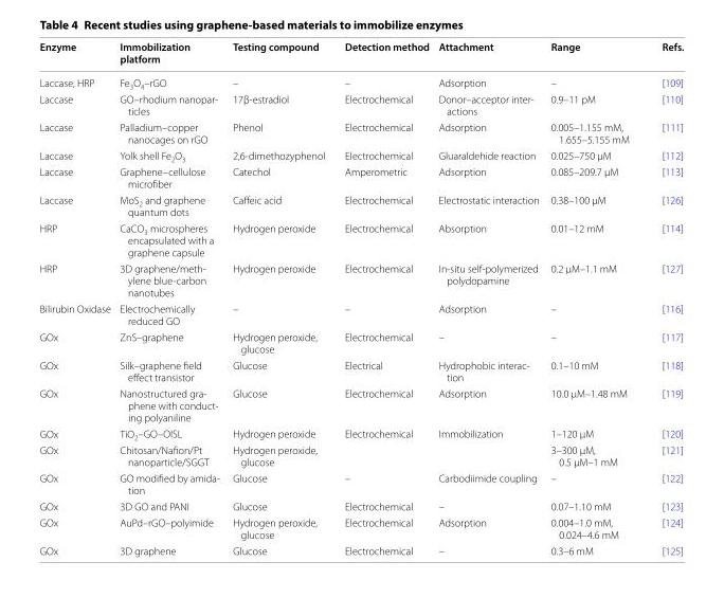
<table><thead><tr><td>Enzyme</td><td>Immobilization platform</td><td>Testing compound</td><td>Detection method</td><td>Attachment</td><td>Range</td><td>Refs.</td></tr></thead><tbody><tr><td>Laccase, HRP</td><td>Fe<sub>3</sub>O<sub>4</sub>–rGO</td><td>–</td><td>–</td><td>Adsorption</td><td>–</td><td>[109]</td></tr><tr><td>Laccase</td><td>GO–rhodium nanopar‑ ticles</td><td>17β‑estradiol</td><td>Electrochemical</td><td>Donor–acceptor inter‑ actions</td><td>0.9–11 pM</td><td>[110]</td></tr><tr><td>Laccase</td><td>Palladium–copper nanocages on rGO</td><td>Phenol</td><td>Electrochemical</td><td>Adsorption</td><td>0.005–1.155 mM, 1.655–5.155 mM</td><td>[111]</td></tr><tr><td>Laccase</td><td>Yolk shell Fe<sub>2</sub>O<sub>3</sub></td><td>2,6‑dimethozyphenol</td><td>Electrochemical</td><td>Gluaraldehide reaction</td><td>0.025–750 μM</td><td>[112]</td></tr><tr><td>Laccase</td><td>Graphene–cellulose microfiber</td><td>Catechol</td><td>Amperometric</td><td>Adsorption</td><td>0.085–209.7 μM</td><td>[113]</td></tr><tr><td>Laccase</td><td>MoS<sub>2</sub> and graphene quantum dots</td><td>Caffeic acid</td><td>Electrochemical</td><td>Electrostatic interaction</td><td>0.38–100 μM</td><td>[126]</td></tr><tr><td>HRP</td><td>CaCO<sub>3</sub> microspheres encapsulated with a graphene capsule</td><td>Hydrogen peroxide</td><td>Electrochemical</td><td>Absorption</td><td>0.01–12 mM</td><td>[114]</td></tr><tr><td>HRP</td><td>3D graphene/meth‑ ylene blue‑carbon nanotubes</td><td>Hydrogen peroxide</td><td>Electrochemical</td><td>In‑situ self‑polymerized polydopamine</td><td>0.2 μM–1.1 mM</td><td>[127]</td></tr><tr><td>Bilirubin Oxidase</td><td>Electrochemically reduced GO</td><td>–</td><td>–</td><td>Adsorption</td><td>–</td><td>[116]</td></tr><tr><td>GOx</td><td>ZnS–graphene</td><td>Hydrogen peroxide, glucose</td><td>Electrochemical</td><td>–</td><td>–</td><td>[117]</td></tr><tr><td>GOx</td><td>Silk–graphene field effect transistor</td><td>Glucose</td><td>Electrical</td><td>Hydrophobic interac‑ tion</td><td>0.1–10 mM</td><td>[118]</td></tr><tr><td>GOx</td><td>Nanostructured gra‑ phene with conduct‑ ing polyaniline</td><td>Glucose</td><td>Electrochemical</td><td>Adsorption</td><td>10.0 μM–1.48 mM</td><td>[119]</td></tr><tr><td>GOx</td><td>TiO<sub>2</sub>–GO–OISL</td><td>Hydrogen peroxide</td><td>Electrochemical</td><td>Immobilization</td><td>1–120 μM</td><td>[120]</td></tr><tr><td>GOx</td><td>Chitosan/Nafion/Pt nanoparticle/SGGT</td><td>Hydrogen peroxide, glucose</td><td></td><td></td><td>3–300 μM, 0.5 μM–1 mM</td><td>[121]</td></tr><tr><td>GOx</td><td>GO modified by amida‑ tion</td><td>Glucose</td><td>–</td><td>Carbodiimide coupling</td><td>–</td><td>[122]</td></tr><tr><td>GOx</td><td>3D GO and PANI</td><td>Glucose</td><td>Electrochemical</td><td>–</td><td>0.07–1.10 mM</td><td>[123]</td></tr><tr><td>GOx</td><td>AuPd–rGO–polyimide</td><td>Hydrogen peroxide, glucose</td><td>Electrochemical</td><td>Adsorption</td><td>0.004–1.0 mM, 0.024–4.6 mM</td><td>[124]</td></tr><tr><td>GOx</td><td>3D graphene</td><td>Glucose</td><td>Electrochemical</td><td>–</td><td>0.3–6 mM</td><td>[125]</td></tr></tbody></table>